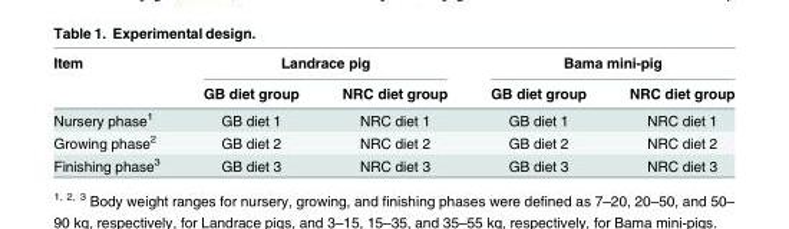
<table><thead><tr><td rowspan="2">Item</td><td colspan="2">Landrace pig</td><td colspan="2">Bama mini-pig</td></tr><tr><td>GB diet group</td><td>NRC diet group</td><td>GB diet group</td><td>NRC diet group</td></tr></thead><tbody><tr><td>Nursery phase<sup>1</sup></td><td>GB diet 1</td><td>NRC diet 1</td><td>GB diet 1</td><td>NRC diet 1</td></tr><tr><td>Growing phase<sup>2</sup></td><td>GB diet 2</td><td>NRC diet 2</td><td>GB diet 2</td><td>NRC diet 2</td></tr><tr><td>Finishing phase<sup>3</sup></td><td>GB diet 3</td><td>NRC diet 3</td><td>GB diet 3</td><td>NRC diet 3</td></tr></tbody></table>